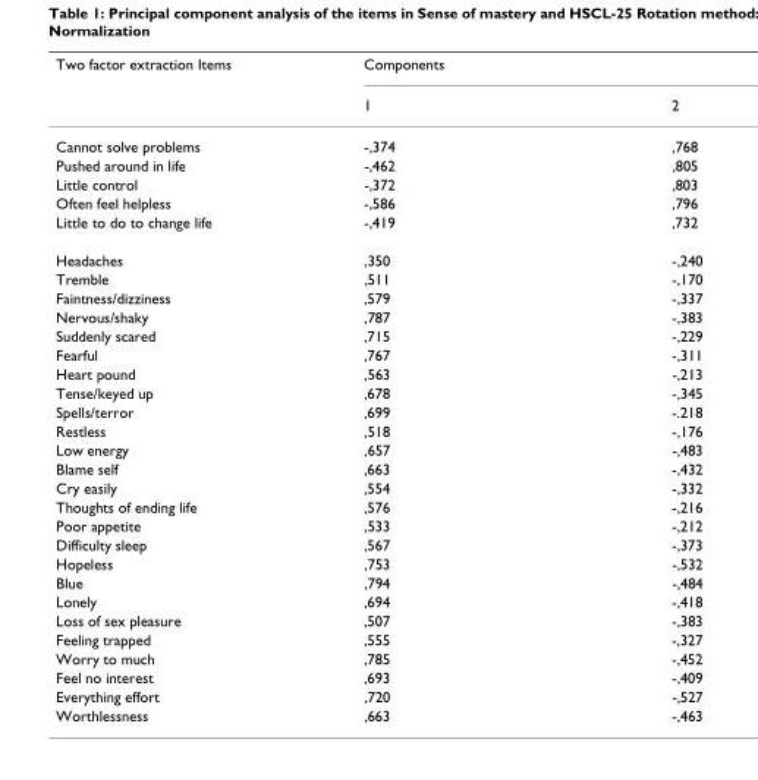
<table><thead><tr><td rowspan="2">Two factor extraction Items</td><td colspan="2">Components</td></tr><tr><td>1</td><td>2</td></tr></thead><tbody><tr><td>Cannot solve problems</td><td>-,374</td><td>,768</td></tr><tr><td>Pushed around in life</td><td>-,462</td><td>,805</td></tr><tr><td>Little control</td><td>-,372</td><td>,803</td></tr><tr><td>Often feel helpless</td><td>-,586</td><td>,796</td></tr><tr><td>Little to do to change life</td><td>-,419</td><td>,732</td></tr><tr><td>Headaches</td><td>,350</td><td>-,240</td></tr><tr><td>Tremble</td><td>,511</td><td>-,170</td></tr><tr><td>Faintness/dizziness</td><td>,579</td><td>-,337</td></tr><tr><td>Nervous/shaky</td><td>,787</td><td>-,383</td></tr><tr><td>Suddenly scared</td><td>,715</td><td>-,229</td></tr><tr><td>Fearful</td><td>,767</td><td>-,311</td></tr><tr><td>Heart pound</td><td>,563</td><td>-,213</td></tr><tr><td>Tense/keyed up</td><td>,678</td><td>-,345</td></tr><tr><td>Spells/terror</td><td>,699</td><td>-.218</td></tr><tr><td>Restless</td><td>,518</td><td>-,176</td></tr><tr><td>Low energy</td><td>,657</td><td>-,483</td></tr><tr><td>Blame self</td><td>,663</td><td>-,432</td></tr><tr><td>Cry easily</td><td>,554</td><td>-,332</td></tr><tr><td>Thoughts of ending life</td><td>,576</td><td>-,216</td></tr><tr><td>Poor appetite</td><td>,533</td><td>-,212</td></tr><tr><td>Difficulty sleep</td><td>,567</td><td>-,373</td></tr><tr><td>Hopeless</td><td>,753</td><td>-,532</td></tr><tr><td>Blue</td><td>,794</td><td>-,484</td></tr><tr><td>Lonely</td><td>,694</td><td>-,418</td></tr><tr><td>Loss of sex pleasure</td><td>,507</td><td>-,383</td></tr><tr><td>Feeling trapped</td><td>,555</td><td>-,327</td></tr><tr><td>Worry to much</td><td>,785</td><td>-,452</td></tr><tr><td>Feel no interest</td><td>,693</td><td>-,409</td></tr><tr><td>Everything effort</td><td>,720</td><td>-,527</td></tr><tr><td>Worthlessness</td><td>,663</td><td>-,463</td></tr></tbody></table>